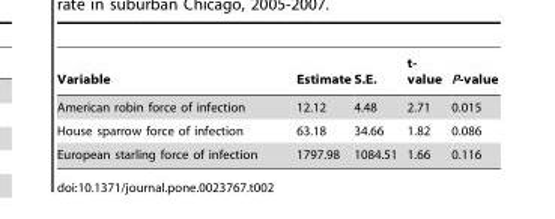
<table><thead><tr><td>Variable</td><td>Estimate</td><td>S.E.</td><td>t- value</td><td>P-value</td></tr></thead><tbody><tr><td>American robin force of infection</td><td>12.12</td><td>4.48</td><td>2.71</td><td>0.015</td></tr><tr><td>House sparrow force of infection</td><td>63.18</td><td>34.66</td><td>1.82</td><td>0.086</td></tr><tr><td>European starling force of infection</td><td>1797.98</td><td>1084.51</td><td>1.66</td><td>0.116</td></tr></tbody></table>